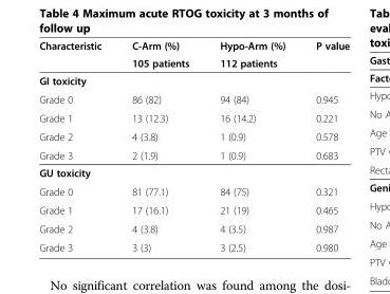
<table><thead><tr><td rowspan="2">Characteristic</td><td rowspan="2">C-Arm (%) 105 patients</td><td rowspan="2">Hypo-Arm (%) 112 patients</td><td rowspan="2">P value</td></tr><tr></tr></thead><tbody><tr><td colspan="4">GI toxicity</td></tr><tr><td>Grade 0</td><td>86 (82)</td><td>94 (84)</td><td>0.945</td></tr><tr><td>Grade 1</td><td>13 (12.3)</td><td>16 (14.2)</td><td>0.221</td></tr><tr><td>Grade 2</td><td>4 (3.8)</td><td>1 (0.9)</td><td>0.578</td></tr><tr><td>Grade 3</td><td>2 (1.9)</td><td>1 (0.9)</td><td>0.683</td></tr><tr><td colspan="4">GU toxicity</td></tr><tr><td>Grade 0</td><td>81 (77.1)</td><td>84 (75)</td><td>0.321</td></tr><tr><td>Grade 1</td><td>17 (16.1)</td><td>21 (19)</td><td>0.465</td></tr><tr><td>Grade 2</td><td>4 (3.8)</td><td>4 (3.5)</td><td>0.987</td></tr><tr><td>Grade 3</td><td>3 (3)</td><td>3 (2.5)</td><td>0.980</td></tr></tbody></table>